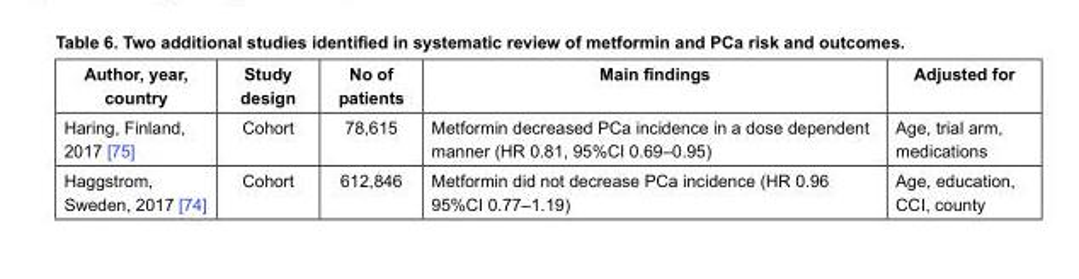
<table><thead><tr><td>Author, year, country</td><td>Study design</td><td>No of patients</td><td>Main findings</td><td>Adjusted for</td></tr></thead><tbody><tr><td>Haring, Finland, 2017 [75]</td><td>Cohort</td><td>78,615</td><td>Metformin decreased PCa incidence in a dose dependent manner (HR 0.81, 95%CI 0.69–0.95)</td><td>Age, trial arm, medications</td></tr><tr><td>Haggstrom, Sweden, 2017 [74]</td><td>Cohort</td><td>612,846</td><td>Metformin did not decrease PCa incidence (HR 0.96 95%CI 0.77–1.19)</td><td>Age, education, CCI, county</td></tr></tbody></table>